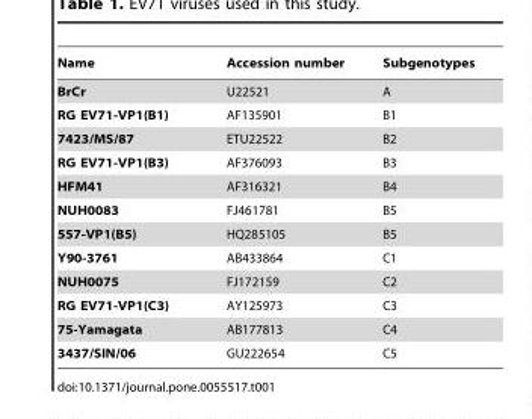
<table><thead><tr><td>Name</td><td>Accession number</td><td>Subgenotypes</td></tr></thead><tbody><tr><td>BrCr</td><td>U22521</td><td>A</td></tr><tr><td>RG EV71-VP1(B1)</td><td>AF135901</td><td>B1</td></tr><tr><td>7423/MS/87</td><td>ETU22522</td><td>B2</td></tr><tr><td>RG EV71-VP1(B3)</td><td>AF376093</td><td>B3</td></tr><tr><td>HFM41</td><td>AF316321</td><td>B4</td></tr><tr><td>NUH0083</td><td>FJ461781</td><td>B5</td></tr><tr><td>557-VP1(B5)</td><td>HQ285105</td><td>B5</td></tr><tr><td>Y90-3761</td><td>AB433864</td><td>C1</td></tr><tr><td>NUH0075</td><td>FJ172159</td><td>C2</td></tr><tr><td>RG EV71-VP1(C3)</td><td>AY125973</td><td>C3</td></tr><tr><td>75-Yamagata</td><td>AB177813</td><td>C4</td></tr><tr><td>3437/SIN/06</td><td>GU222654</td><td>C5</td></tr></tbody></table>